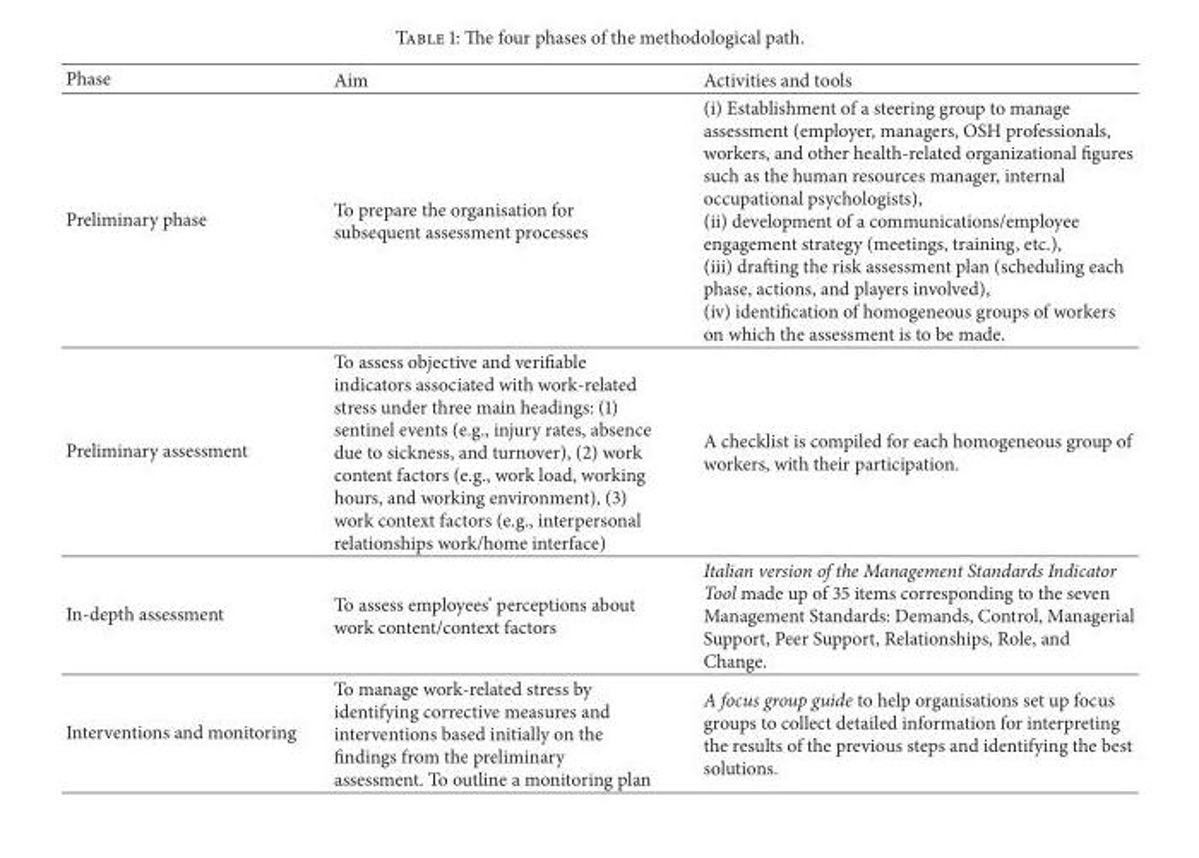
<table><thead><tr><td>Phase</td><td>Aim</td><td>Activities and tools</td></tr></thead><tbody><tr><td>Preliminary phase</td><td>To prepare the organisation for subsequent assessment processes</td><td>(i) Establishment of a steering group to manage assessment (employer, managers, OSH professionals, workers, and other health-related organizational figures such as the human resources manager, internal occupational psychologists), (ii) development of a communications/employee engagement strategy (meetings, training, etc.), (iii) drafting the risk assessment plan (scheduling each phase, actions, and players involved), (iv) identification of homogeneous groups of workers on which the assessment is to be made.</td></tr><tr><td>Preliminary assessment</td><td>To assess objective and verifiable indicators associated with work-related stress under three main headings: (1) sentinel events (e.g., injury rates, absence due to sickness, and turnover), (2) work content factors (e.g., work load, working hours, and working environment), (3) work context factors (e.g., interpersonal relationships work/home interface)</td><td>A checklist is compiled for each homogeneous group of workers, with their participation.</td></tr><tr><td>In-depth assessment</td><td>To assess employees’ perceptions about work content/context factors</td><td>Italian version of the Management Standards Indicator Tool made up of 35 items corresponding to the seven Management Standards: Demands, Control, Managerial Support, Peer Support, Relationships, Role, and Change.</td></tr><tr><td>Interventions and monitoring</td><td>To manage work-related stress by identifying corrective measures and interventions based initially on the findings from the preliminary assessment. To outline a monitoring plan</td><td>A focus group guide to help organisations set up focus groups to collect detailed information for interpreting the results of the previous steps and identifying the best solutions.</td></tr></tbody></table>